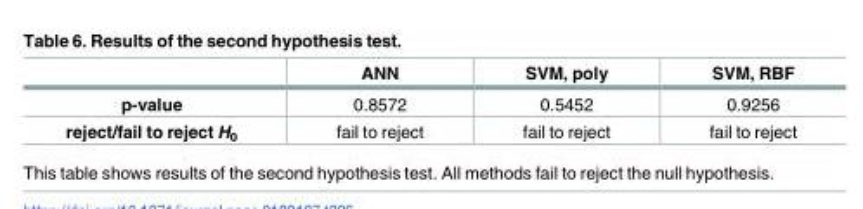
<table><thead><tr><td></td><td>ANN</td><td>SVM, poly</td><td>SVM, RBF</td></tr></thead><tbody><tr><td>p-value</td><td>0.8572</td><td>0.5452</td><td>0.9256</td></tr><tr><td>reject/fail to reject H<sub>0</sub></td><td>fail to reject</td><td>fail to reject</td><td>fail to reject</td></tr></tbody></table>